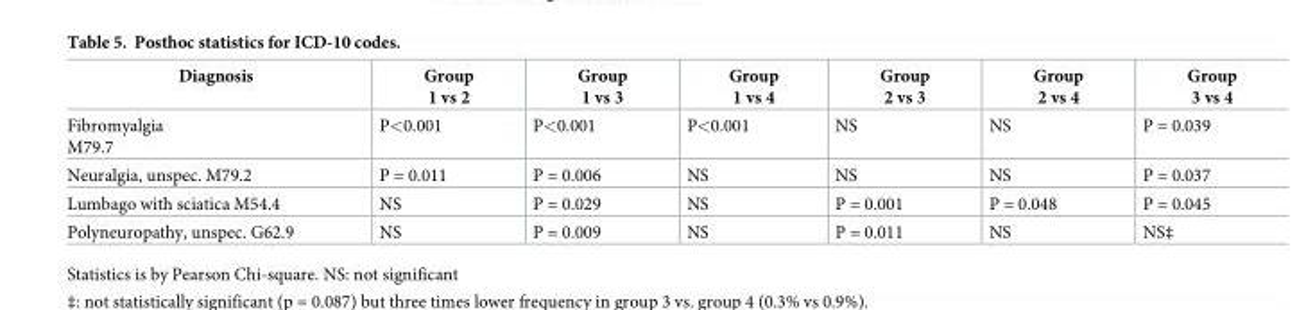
<table><thead><tr><td>Diagnosis</td><td>Group 1 vs 2</td><td>Group 1 vs 3</td><td>Group 1 vs 4</td><td>Group 2 vs 3</td><td>Group 2 vs 4</td><td>Group 3 vs 4</td></tr></thead><tbody><tr><td>Fibromyalgia M79.7</td><td>P&lt;0.001</td><td>P&lt;0.001</td><td>P&lt;0.001</td><td>NS</td><td>NS</td><td>P = 0.039</td></tr><tr><td>Neuralgia, unspec. M79.2</td><td>P = 0.011</td><td>P = 0.006</td><td>NS</td><td>NS</td><td>NS</td><td>P = 0.037</td></tr><tr><td>Lumbago with sciatica M54.4</td><td>NS</td><td>P = 0.029</td><td>NS</td><td>P = 0.001</td><td>P = 0.048</td><td>P = 0.045</td></tr><tr><td>Polyneuropathy, unspec. G62.9</td><td>NS</td><td>P = 0.009</td><td>NS</td><td>P = 0.011</td><td>NS</td><td>NS‡</td></tr></tbody></table>